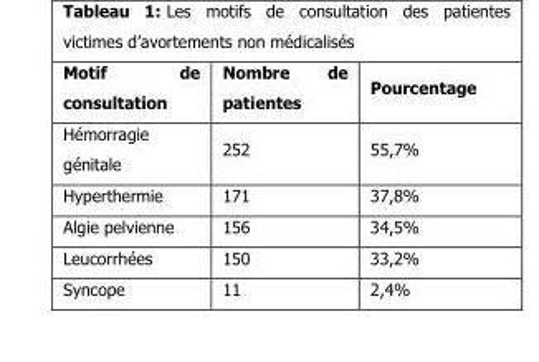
<table><thead><tr><td>Motif de consultation</td><td>Nombre de patientes</td><td>Pourcentage</td></tr></thead><tbody><tr><td>Hémorragie génitale</td><td>252</td><td>55,7%</td></tr><tr><td>Hyperthermie</td><td>171</td><td>37,8%</td></tr><tr><td>Algie pelvienne</td><td>156</td><td>34,5%</td></tr><tr><td>Leucorrhées</td><td>150</td><td>33,2%</td></tr><tr><td>Syncope</td><td>11</td><td>2,4%</td></tr></tbody></table>